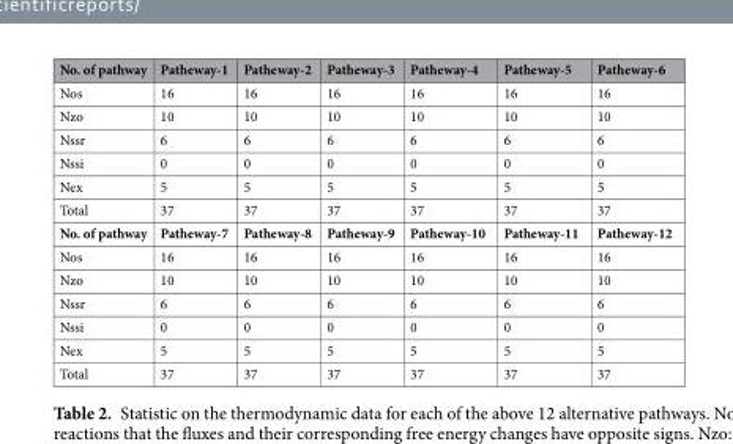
<table><thead><tr><td>No. of pathway</td><td>Patheway-1</td><td>Patheway-2</td><td>Patheway-3</td><td>Patheway-4</td><td>Patheway-5</td><td>Patheway-6</td></tr></thead><tbody><tr><td>Nos</td><td>16</td><td>16</td><td>16</td><td>16</td><td>16</td><td>16</td></tr><tr><td>Nzo</td><td>10</td><td>10</td><td>10</td><td>10</td><td>10</td><td>10</td></tr><tr><td>Nssr</td><td>6</td><td>6</td><td>6</td><td>6</td><td>6</td><td>6</td></tr><tr><td>Nssi</td><td>0</td><td>0</td><td>0</td><td>0</td><td>0</td><td>0</td></tr><tr><td>Nex</td><td>5</td><td>5</td><td>5</td><td>5</td><td>5</td><td>5</td></tr><tr><td>Total</td><td>37</td><td>37</td><td>37</td><td>37</td><td>37</td><td>37</td></tr><tr><td>No. of pathway</td><td>Patheway-7</td><td>Patheway-8</td><td>Patheway-9</td><td>Patheway-10</td><td>Patheway-11</td><td>Patheway-12</td></tr><tr><td>Nos</td><td>16</td><td>16</td><td>16</td><td>16</td><td>16</td><td>16</td></tr><tr><td>Nzo</td><td>10</td><td>10</td><td>10</td><td>10</td><td>10</td><td>10</td></tr><tr><td>Nssr</td><td>6</td><td>6</td><td>6</td><td>6</td><td>6</td><td>6</td></tr><tr><td>Nssi</td><td>0</td><td>0</td><td>0</td><td>0</td><td>0</td><td>0</td></tr><tr><td>Nex</td><td>5</td><td>5</td><td>5</td><td>5</td><td>5</td><td>5</td></tr><tr><td>Total</td><td>37</td><td>37</td><td>37</td><td>37</td><td>37</td><td>37</td></tr></tbody></table>